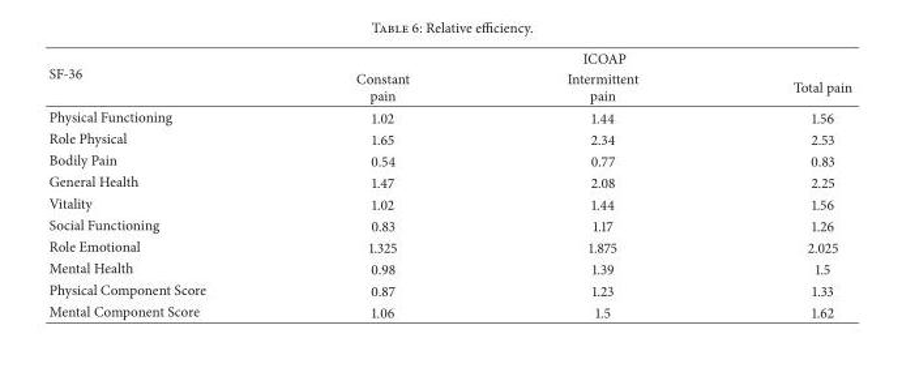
<table><thead><tr><td rowspan="2">SF-36</td><td colspan="3">ICOAP</td></tr><tr><td>Constant pain</td><td>Intermittent pain</td><td>Total pain</td></tr></thead><tbody><tr><td>Physical Functioning</td><td>1.02</td><td>1.44</td><td>1.56</td></tr><tr><td>Role Physical</td><td>1.65</td><td>2.34</td><td>2.53</td></tr><tr><td>Bodily Pain</td><td>0.54</td><td>0.77</td><td>0.83</td></tr><tr><td>General Health</td><td>1.47</td><td>2.08</td><td>2.25</td></tr><tr><td>Vitality</td><td>1.02</td><td>1.44</td><td>1.56</td></tr><tr><td>Social Functioning</td><td>0.83</td><td>1.17</td><td>1.26</td></tr><tr><td>Role Emotional</td><td>1.325</td><td>1.875</td><td>2.025</td></tr><tr><td>Mental Health</td><td>0.98</td><td>1.39</td><td>1.5</td></tr><tr><td>Physical Component Score</td><td>0.87</td><td>1.23</td><td>1.33</td></tr><tr><td>Mental Component Score</td><td>1.06</td><td>1.5</td><td>1.62</td></tr></tbody></table>